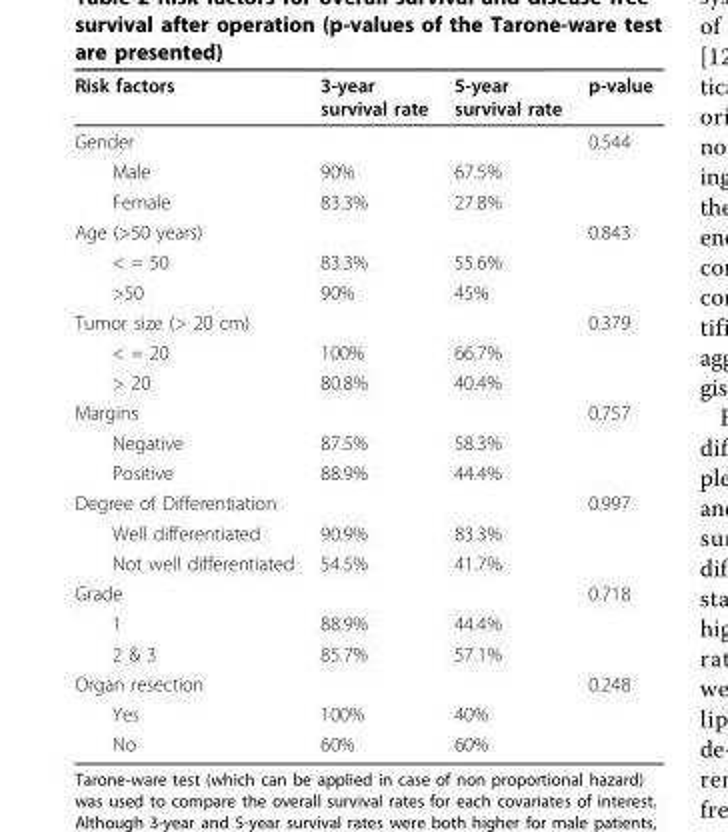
<table><thead><tr><td>Risk factors</td><td>3-year survival rate</td><td>5-year survival rate</td><td>p-value</td></tr></thead><tbody><tr><td>Gender</td><td></td><td></td><td>0.544</td></tr><tr><td>Male</td><td>90%</td><td>67.5%</td><td></td></tr><tr><td>Female</td><td>83.3%</td><td>27.8%</td><td></td></tr><tr><td>Age (&gt;50 years)</td><td></td><td></td><td>0.843</td></tr><tr><td>&lt; = 50</td><td>83.3%</td><td>55.6%</td><td></td></tr><tr><td>&gt;50</td><td>90%</td><td>45%</td><td></td></tr><tr><td>Tumor size (&gt; 20 cm)</td><td></td><td></td><td>0.379</td></tr><tr><td>&lt; = 20</td><td>100%</td><td>66.7%</td><td></td></tr><tr><td>&gt; 20</td><td>80.8%</td><td>40.4%</td><td></td></tr><tr><td>Margins</td><td></td><td></td><td>0.757</td></tr><tr><td>Negative</td><td>87.5%</td><td>58.3%</td><td></td></tr><tr><td>Positive</td><td>88.9%</td><td>44.4%</td><td></td></tr><tr><td>Degree of Differentiation</td><td></td><td></td><td>0.997</td></tr><tr><td>Well differentiated</td><td>90.9%</td><td>83.3%</td><td></td></tr><tr><td>Not well differentiated</td><td>54.5%</td><td>41.7%</td><td></td></tr><tr><td>Grade</td><td></td><td></td><td>0.718</td></tr><tr><td>1</td><td>88.9%</td><td>44.4%</td><td></td></tr><tr><td>2 &amp; 3</td><td>85.7%</td><td>57.1%</td><td></td></tr><tr><td>Organ resection</td><td></td><td></td><td>0.248</td></tr><tr><td>Yes</td><td>100%</td><td>40%</td><td></td></tr><tr><td>No</td><td>60%</td><td>60%</td><td></td></tr></tbody></table>